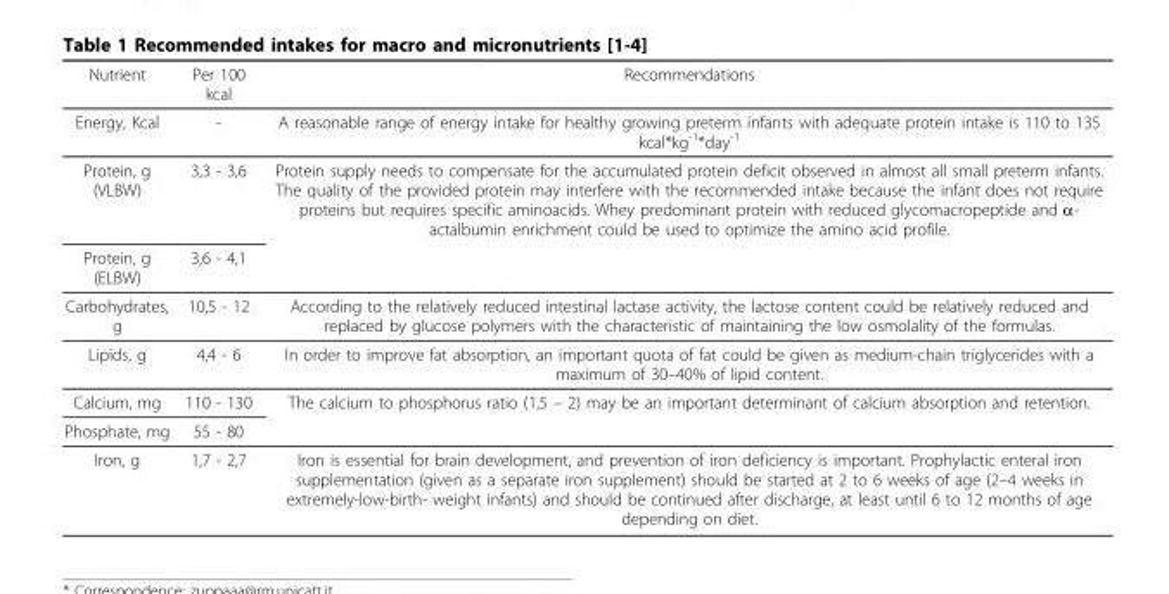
<table><thead><tr><td>Nutrient</td><td>Per 100 kcal</td><td>Recommendations</td></tr></thead><tbody><tr><td>Energy, Kcal</td><td>-</td><td>A reasonable range of energy intake for healthy growing preterm infants with adequate protein intake is 110 to 135 kcal*kg<sup>-1</sup>*day<sup>-1</sup></td></tr><tr><td>Protein, g (VLBW)</td><td>3,3 - 3,6</td><td>Protein supply needs to compensate for the accumulated protein deficit observed in almost all small preterm infants. The quality of the provided protein may interfere with the recommended intake because the infant does not require proteins but requires specific aminoacids. Whey predominant protein with reduced glycomacropeptide and α- actalbumin enrichment could be used to optimize the amino acid profile.</td></tr><tr><td>Protein, g (ELBW)</td><td>3,6 - 4,1</td><td></td></tr><tr><td>Carbohydrates, g</td><td>10,5 - 12</td><td>According to the relatively reduced intestinal lactase activity, the lactose content could be relatively reduced and replaced by glucose polymers with the characteristic of maintaining the low osmolality of the formulas.</td></tr><tr><td>Lipids, g</td><td>4,4 - 6</td><td>In order to improve fat absorption, an important quota of fat could be given as medium-chain triglycerides with a maximum of 30–40% of lipid content.</td></tr><tr><td>Calcium, mg</td><td>110 - 130</td><td>The calcium to phosphorus ratio (1,5 – 2) may be an important determinant of calcium absorption and retention.</td></tr><tr><td>Phosphate, mg</td><td>55 - 80</td><td></td></tr><tr><td>Iron, g</td><td>1,7 - 2,7</td><td>Iron is essential for brain development, and prevention of iron deficiency is important. Prophylactic enteral iron supplementation (given as a separate iron supplement) should be started at 2 to 6 weeks of age (2–4 weeks in extremely-low-birth- weight infants) and should be continued after discharge, at least until 6 to 12 months of age depending on diet.</td></tr></tbody></table>